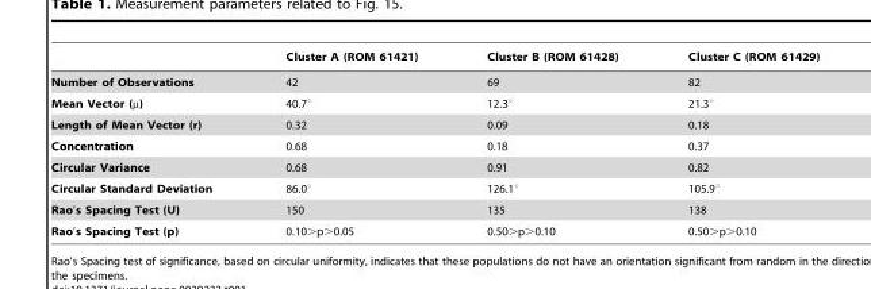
<table><thead><tr><td></td><td>Cluster A (ROM 61421)</td><td>Cluster B (ROM 61428)</td><td>Cluster C (ROM 61429)</td></tr></thead><tbody><tr><td>Number of Observations</td><td>42</td><td>69</td><td>82</td></tr><tr><td>Mean Vector (µ)</td><td>40.7°</td><td>12.3°</td><td>21.3°</td></tr><tr><td>Length of Mean Vector (r)</td><td>0.32</td><td>0.09</td><td>0.18</td></tr><tr><td>Concentration</td><td>0.68</td><td>0.18</td><td>0.37</td></tr><tr><td>Circular Variance</td><td>0.68</td><td>0.91</td><td>0.82</td></tr><tr><td>Circular Standard Deviation</td><td>86.0°</td><td>126.1°</td><td>105.9°</td></tr><tr><td>Rao’s Spacing Test (U)</td><td>150</td><td>135</td><td>138</td></tr><tr><td>Rao’s Spacing Test (p)</td><td>0.10&gt;p&gt;0.05</td><td>0.50&gt;p&gt;0.10</td><td>0.50&gt;p&gt;0.10</td></tr></tbody></table>